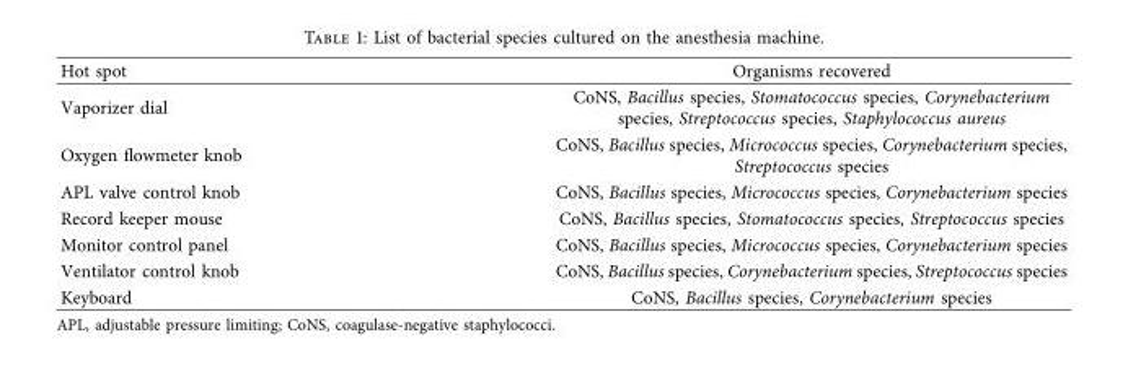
<table><thead><tr><td>Hot spot</td><td>Organisms recovered</td></tr></thead><tbody><tr><td>Vaporizer dial</td><td>CoNS, Bacillus species, Stomatococcus species, Corynebacterium species, Streptococcus species, Staphylococcus aureus</td></tr><tr><td>Oxygen fowmeter knob</td><td>CoNS, Bacillus species, Micrococcus species, Corynebacterium species, Streptococcus species</td></tr><tr><td>APL valve control knob</td><td>CoNS, Bacillus species, Micrococcus species, Corynebacterium species</td></tr><tr><td>Record keeper mouse</td><td>CoNS, Bacillus species, Stomatococcus species, Streptococcus species</td></tr><tr><td>Monitor control panel</td><td>CoNS, Bacillus species, Micrococcus species, Corynebacterium species</td></tr><tr><td>Ventilator control knob</td><td>CoNS, Bacillus species, Corynebacterium species, Streptococcus species</td></tr><tr><td>Keyboard</td><td>CoNS, Bacillus species, Corynebacterium species</td></tr></tbody></table>